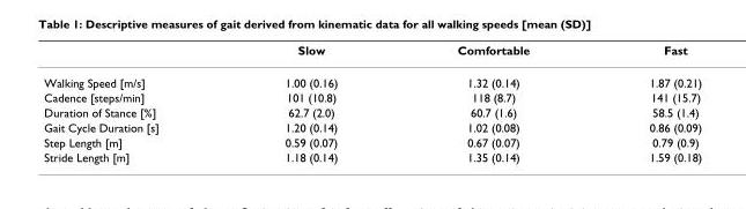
<table><thead><tr><td></td><td>Slow</td><td>Comfortable</td><td>Fast</td></tr></thead><tbody><tr><td>Walking Speed [m/s]</td><td>1.00 (0.16)</td><td>1.32 (0.14)</td><td>1.87 (0.21)</td></tr><tr><td>Cadence [steps/min]</td><td>101 (10.8)</td><td>118 (8.7)</td><td>141 (15.7)</td></tr><tr><td>Duration of Stance [%]</td><td>62.7 (2.0)</td><td>60.7 (1.6)</td><td>58.5 (1.4)</td></tr><tr><td>Gait Cycle Duration [s]</td><td>1.20 (0.14)</td><td>1.02 (0.08)</td><td>0.86 (0.09)</td></tr><tr><td>Step Length [m]</td><td>0.59 (0.07)</td><td>0.67 (0.07)</td><td>0.79 (0.9)</td></tr><tr><td>Stride Length [m]</td><td>1.18 (0.14)</td><td>1.35 (0.14)</td><td>1.59 (0.18)</td></tr></tbody></table>